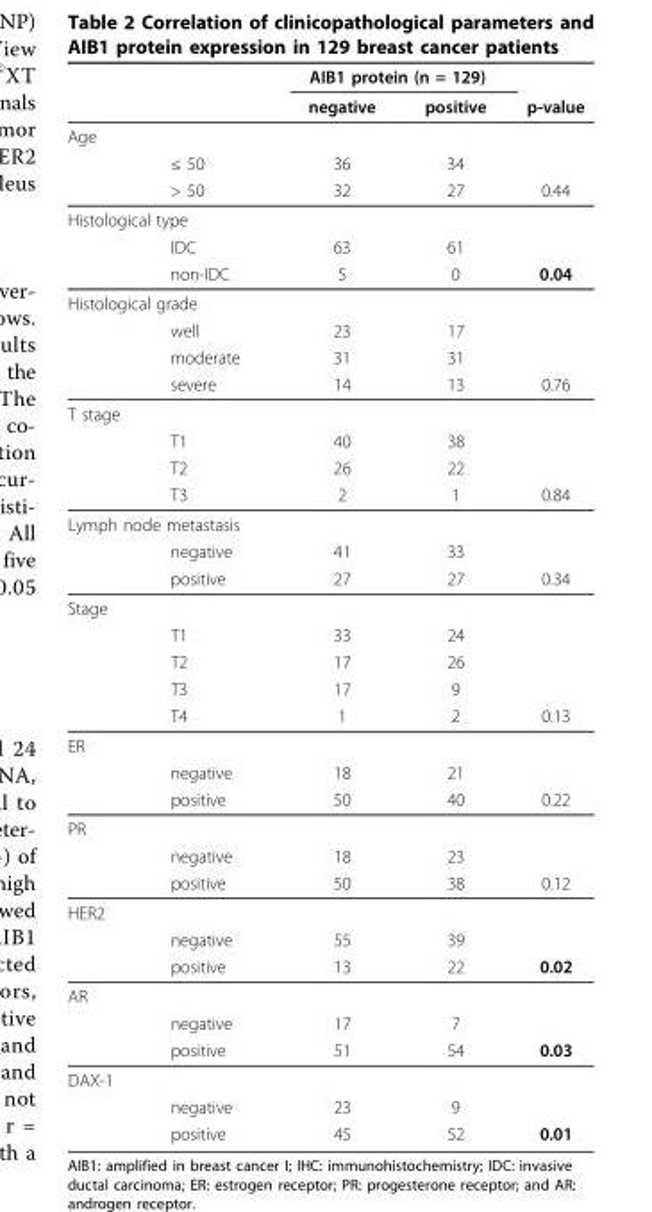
<table><thead><tr><td rowspan="2"></td><td rowspan="2"></td><td colspan="2">AIB1 protein (n = 129)</td><td rowspan="2">p-value</td></tr><tr><td>negative</td><td>positive</td></tr></thead><tbody><tr><td colspan="5">Age</td></tr><tr><td></td><td>≤ 50</td><td>36</td><td>34</td><td></td></tr><tr><td></td><td>&gt; 50</td><td>32</td><td>27</td><td>0.44</td></tr><tr><td colspan="5">Histological type</td></tr><tr><td></td><td>IDC</td><td>63</td><td>61</td><td></td></tr><tr><td></td><td>non-IDC</td><td>5</td><td>0</td><td>0.04</td></tr><tr><td colspan="5">Histological grade</td></tr><tr><td></td><td>well</td><td>23</td><td>17</td><td></td></tr><tr><td></td><td>moderate</td><td>31</td><td>31</td><td></td></tr><tr><td></td><td>severe</td><td>14</td><td>13</td><td>0.76</td></tr><tr><td colspan="5">T stage</td></tr><tr><td></td><td>T1</td><td>40</td><td>38</td><td></td></tr><tr><td></td><td>T2</td><td>26</td><td>22</td><td></td></tr><tr><td></td><td>T3</td><td>2</td><td>1</td><td>0.84</td></tr><tr><td colspan="5">Lymph node metastasis</td></tr><tr><td></td><td>negative</td><td>41</td><td>33</td><td></td></tr><tr><td></td><td>positive</td><td>27</td><td>27</td><td>0.34</td></tr><tr><td colspan="5">Stage</td></tr><tr><td></td><td>T1</td><td>33</td><td>24</td><td></td></tr><tr><td></td><td>T2</td><td>17</td><td>26</td><td></td></tr><tr><td></td><td>T3</td><td>17</td><td>9</td><td></td></tr><tr><td></td><td>T4</td><td>1</td><td>2</td><td>0.13</td></tr><tr><td colspan="5">ER</td></tr><tr><td></td><td>negative</td><td>18</td><td>21</td><td></td></tr><tr><td></td><td>positive</td><td>50</td><td>40</td><td>0.22</td></tr><tr><td colspan="5">PR</td></tr><tr><td></td><td>negative</td><td>18</td><td>23</td><td></td></tr><tr><td></td><td>positive</td><td>50</td><td>38</td><td>0.12</td></tr><tr><td colspan="5">HER2</td></tr><tr><td></td><td>negative</td><td>55</td><td>39</td><td></td></tr><tr><td></td><td>positive</td><td>13</td><td>22</td><td>0.02</td></tr><tr><td colspan="5">AR</td></tr><tr><td></td><td>negative</td><td>17</td><td>7</td><td></td></tr><tr><td></td><td>positive</td><td>51</td><td>54</td><td>0.03</td></tr><tr><td colspan="5">DAX-1</td></tr><tr><td></td><td>negative</td><td>23</td><td>9</td><td></td></tr><tr><td></td><td>positive</td><td>45</td><td>52</td><td>0.01</td></tr></tbody></table>